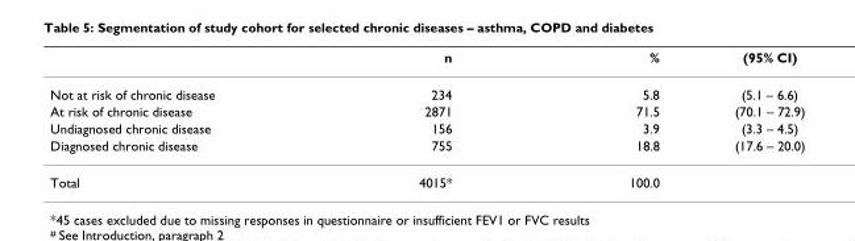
<table><thead><tr><td></td><td>n</td><td>%</td><td>(95% CI)</td></tr></thead><tbody><tr><td>Not at risk of chronic disease</td><td>234</td><td>5.8</td><td>(5.1 – 6.6)</td></tr><tr><td>At risk of chronic disease</td><td>2871</td><td>71.5</td><td>(70.1 – 72.9)</td></tr><tr><td>Undiagnosed chronic disease</td><td>156</td><td>3.9</td><td>(3.3 – 4.5)</td></tr><tr><td>Diagnosed chronic disease</td><td>755</td><td>18.8</td><td>(17.6 – 20.0)</td></tr><tr><td>Total</td><td>4015*</td><td>100.0</td><td></td></tr></tbody></table>